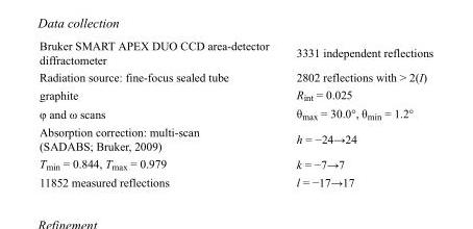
<table><tbody><tr><td>Bruker SMART APEX DUO CCD area-detector diffractometer</td><td>3331 independent reflections</td></tr><tr><td>Radiation source: fine-focus sealed tube</td><td>2802 reflections with &gt; 2(I)</td></tr><tr><td>graphite</td><td>R<sub>int</sub> = 0.025</td></tr><tr><td>φ and ω scans</td><td>θ<sub>max</sub> = 30.0°, θ<sub>min</sub> = 1.2°</td></tr><tr><td>Absorption correction: multi-scan (SADABS; Bruker, 2009)</td><td>h = −24→24</td></tr><tr><td>T<sub>min</sub> = 0.844, T<sub>max</sub> = 0.979</td><td>k = −7→7</td></tr><tr><td>11852 measured reflections</td><td>l = −17→17</td></tr></tbody></table>